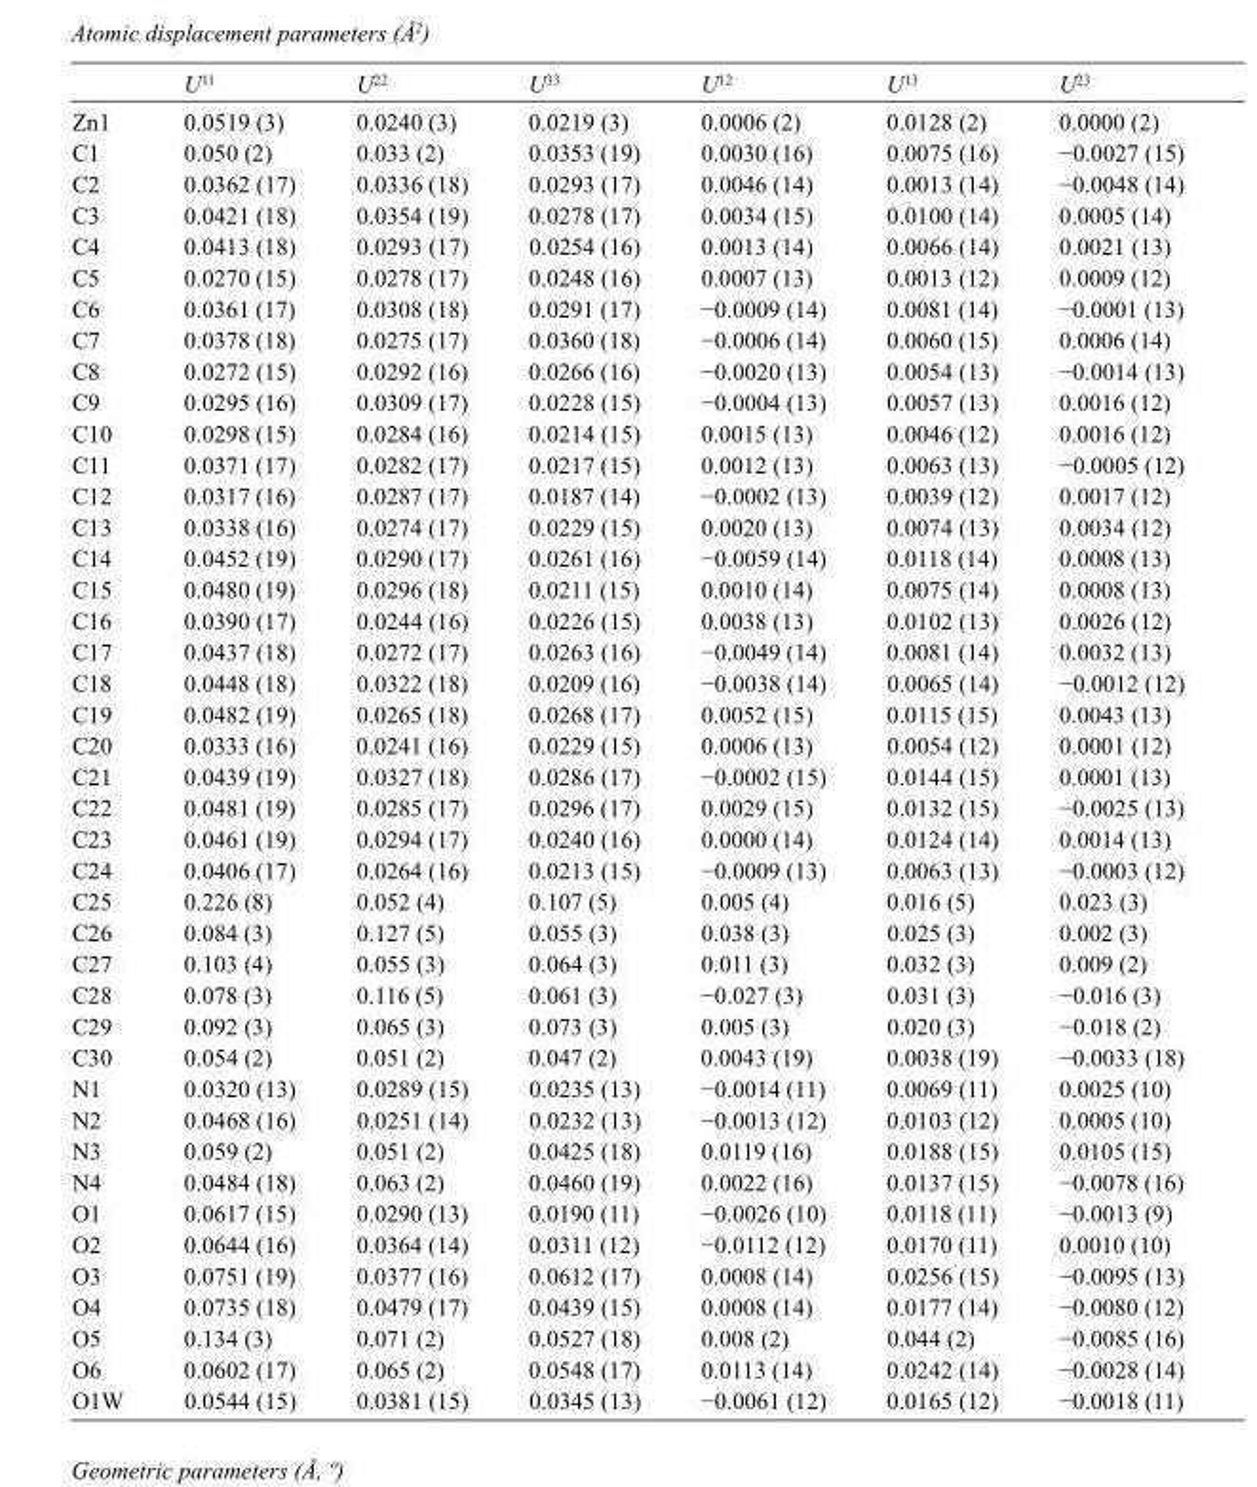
<table><thead><tr><td></td><td>U<sup>11</sup></td><td>U<sup>22</sup></td><td>U<sup>33</sup></td><td>U<sup>12</sup></td><td>U<sup>13</sup></td><td>U<sup>23</sup></td></tr></thead><tbody><tr><td>Zn1</td><td>0.0519 (3)</td><td>0.0240 (3)</td><td>0.0219 (3)</td><td>0.0006 (2)</td><td>0.0128 (2)</td><td>0.0000 (2)</td></tr><tr><td>C1</td><td>0.050 (2)</td><td>0.033 (2)</td><td>0.0353 (19)</td><td>0.0030 (16)</td><td>0.0075 (16)</td><td>−0.0027 (15)</td></tr><tr><td>C2</td><td>0.0362 (17)</td><td>0.0336 (18)</td><td>0.0293 (17)</td><td>0.0046 (14)</td><td>0.0013 (14)</td><td>−0.0048 (14)</td></tr><tr><td>C3</td><td>0.0421 (18)</td><td>0.0354 (19)</td><td>0.0278 (17)</td><td>0.0034 (15)</td><td>0.0100 (14)</td><td>0.0005 (14)</td></tr><tr><td>C4</td><td>0.0413 (18)</td><td>0.0293 (17)</td><td>0.0254 (16)</td><td>0.0013 (14)</td><td>0.0066 (14)</td><td>0.0021 (13)</td></tr><tr><td>C5</td><td>0.0270 (15)</td><td>0.0278 (17)</td><td>0.0248 (16)</td><td>0.0007 (13)</td><td>0.0013 (12)</td><td>0.0009 (12)</td></tr><tr><td>C6</td><td>0.0361 (17)</td><td>0.0308 (18)</td><td>0.0291 (17)</td><td>−0.0009 (14)</td><td>0.0081 (14)</td><td>−0.0001 (13)</td></tr><tr><td>C7</td><td>0.0378 (18)</td><td>0.0275 (17)</td><td>0.0360 (18)</td><td>−0.0006 (14)</td><td>0.0060 (15)</td><td>0.0006 (14)</td></tr><tr><td>C8</td><td>0.0272 (15)</td><td>0.0292 (16)</td><td>0.0266 (16)</td><td>−0.0020 (13)</td><td>0.0054 (13)</td><td>−0.0014 (13)</td></tr><tr><td>C9</td><td>0.0295 (16)</td><td>0.0309 (17)</td><td>0.0228 (15)</td><td>−0.0004 (13)</td><td>0.0057 (13)</td><td>0.0016 (12)</td></tr><tr><td>C10</td><td>0.0298 (15)</td><td>0.0284 (16)</td><td>0.0214 (15)</td><td>0.0015 (13)</td><td>0.0046 (12)</td><td>0.0016 (12)</td></tr><tr><td>C11</td><td>0.0371 (17)</td><td>0.0282 (17)</td><td>0.0217 (15)</td><td>0.0012 (13)</td><td>0.0063 (13)</td><td>−0.0005 (12)</td></tr><tr><td>C12</td><td>0.0317 (16)</td><td>0.0287 (17)</td><td>0.0187 (14)</td><td>−0.0002 (13)</td><td>0.0039 (12)</td><td>0.0017 (12)</td></tr><tr><td>C13</td><td>0.0338 (16)</td><td>0.0274 (17)</td><td>0.0229 (15)</td><td>0.0020 (13)</td><td>0.0074 (13)</td><td>0.0034 (12)</td></tr><tr><td>C14</td><td>0.0452 (19)</td><td>0.0290 (17)</td><td>0.0261 (16)</td><td>−0.0059 (14)</td><td>0.0118 (14)</td><td>0.0008 (13)</td></tr><tr><td>C15</td><td>0.0480 (19)</td><td>0.0296 (18)</td><td>0.0211 (15)</td><td>0.0010 (14)</td><td>0.0075 (14)</td><td>0.0008 (13)</td></tr><tr><td>C16</td><td>0.0390 (17)</td><td>0.0244 (16)</td><td>0.0226 (15)</td><td>0.0038 (13)</td><td>0.0102 (13)</td><td>0.0026 (12)</td></tr><tr><td>C17</td><td>0.0437 (18)</td><td>0.0272 (17)</td><td>0.0263 (16)</td><td>−0.0049 (14)</td><td>0.0081 (14)</td><td>0.0032 (13)</td></tr><tr><td>C18</td><td>0.0448 (18)</td><td>0.0322 (18)</td><td>0.0209 (16)</td><td>−0.0038 (14)</td><td>0.0065 (14)</td><td>−0.0012 (12)</td></tr><tr><td>C19</td><td>0.0482 (19)</td><td>0.0265 (18)</td><td>0.0268 (17)</td><td>0.0052 (15)</td><td>0.0115 (15)</td><td>0.0043 (13)</td></tr><tr><td>C20</td><td>0.0333 (16)</td><td>0.0241 (16)</td><td>0.0229 (15)</td><td>0.0006 (13)</td><td>0.0054 (12)</td><td>0.0001 (12)</td></tr><tr><td>C21</td><td>0.0439 (19)</td><td>0.0327 (18)</td><td>0.0286 (17)</td><td>−0.0002 (15)</td><td>0.0144 (15)</td><td>0.0001 (13)</td></tr><tr><td>C22</td><td>0.0481 (19)</td><td>0.0285 (17)</td><td>0.0296 (17)</td><td>0.0029 (15)</td><td>0.0132 (15)</td><td>−0.0025 (13)</td></tr><tr><td>C23</td><td>0.0461 (19)</td><td>0.0294 (17)</td><td>0.0240 (16)</td><td>0.0000 (14)</td><td>0.0124 (14)</td><td>0.0014 (13)</td></tr><tr><td>C24</td><td>0.0406 (17)</td><td>0.0264 (16)</td><td>0.0213 (15)</td><td>−0.0009 (13)</td><td>0.0063 (13)</td><td>−0.0003 (12)</td></tr><tr><td>C25</td><td>0.226 (8)</td><td>0.052 (4)</td><td>0.107 (5)</td><td>0.005 (4)</td><td>0.016 (5)</td><td>0.023 (3)</td></tr><tr><td>C26</td><td>0.084 (3)</td><td>0.127 (5)</td><td>0.055 (3)</td><td>0.038 (3)</td><td>0.025 (3)</td><td>0.002 (3)</td></tr><tr><td>C27</td><td>0.103 (4)</td><td>0.055 (3)</td><td>0.064 (3)</td><td>0.011 (3)</td><td>0.032 (3)</td><td>0.009 (2)</td></tr><tr><td>C28</td><td>0.078 (3)</td><td>0.116 (5)</td><td>0.061 (3)</td><td>−0.027 (3)</td><td>0.031 (3)</td><td>−0.016 (3)</td></tr><tr><td>C29</td><td>0.092 (3)</td><td>0.065 (3)</td><td>0.073 (3)</td><td>0.005 (3)</td><td>0.020 (3)</td><td>−0.018 (2)</td></tr><tr><td>C30</td><td>0.054 (2)</td><td>0.051 (2)</td><td>0.047 (2)</td><td>0.0043 (19)</td><td>0.0038 (19)</td><td>−0.0033 (18)</td></tr><tr><td>N1</td><td>0.0320 (13)</td><td>0.0289 (15)</td><td>0.0235 (13)</td><td>−0.0014 (11)</td><td>0.0069 (11)</td><td>0.0025 (10)</td></tr><tr><td>N2</td><td>0.0468 (16)</td><td>0.0251 (14)</td><td>0.0232 (13)</td><td>−0.0013 (12)</td><td>0.0103 (12)</td><td>0.0005 (10)</td></tr><tr><td>N3</td><td>0.059 (2)</td><td>0.051 (2)</td><td>0.0425 (18)</td><td>0.0119 (16)</td><td>0.0188 (15)</td><td>0.0105 (15)</td></tr><tr><td>N4</td><td>0.0484 (18)</td><td>0.063 (2)</td><td>0.0460 (19)</td><td>0.0022 (16)</td><td>0.0137 (15)</td><td>−0.0078 (16)</td></tr><tr><td>O1</td><td>0.0617 (15)</td><td>0.0290 (13)</td><td>0.0190 (11)</td><td>−0.0026 (10)</td><td>0.0118 (11)</td><td>−0.0013 (9)</td></tr><tr><td>O2</td><td>0.0644 (16)</td><td>0.0364 (14)</td><td>0.0311 (12)</td><td>−0.0112 (12)</td><td>0.0170 (11)</td><td>0.0010 (10)</td></tr><tr><td>O3</td><td>0.0751 (19)</td><td>0.0377 (16)</td><td>0.0612 (17)</td><td>0.0008 (14)</td><td>0.0256 (15)</td><td>−0.0095 (13)</td></tr><tr><td>O4</td><td>0.0735 (18)</td><td>0.0479 (17)</td><td>0.0439 (15)</td><td>0.0008 (14)</td><td>0.0177 (14)</td><td>−0.0080 (12)</td></tr><tr><td>O5</td><td>0.134 (3)</td><td>0.071 (2)</td><td>0.0527 (18)</td><td>0.008 (2)</td><td>0.044 (2)</td><td>−0.0085 (16)</td></tr><tr><td>O6</td><td>0.0602 (17)</td><td>0.065 (2)</td><td>0.0548 (17)</td><td>0.0113 (14)</td><td>0.0242 (14)</td><td>−0.0028 (14)</td></tr><tr><td>O1W</td><td>0.0544 (15)</td><td>0.0381 (15)</td><td>0.0345 (13)</td><td>−0.0061 (12)</td><td>0.0165 (12)</td><td>−0.0018 (11)</td></tr></tbody></table>